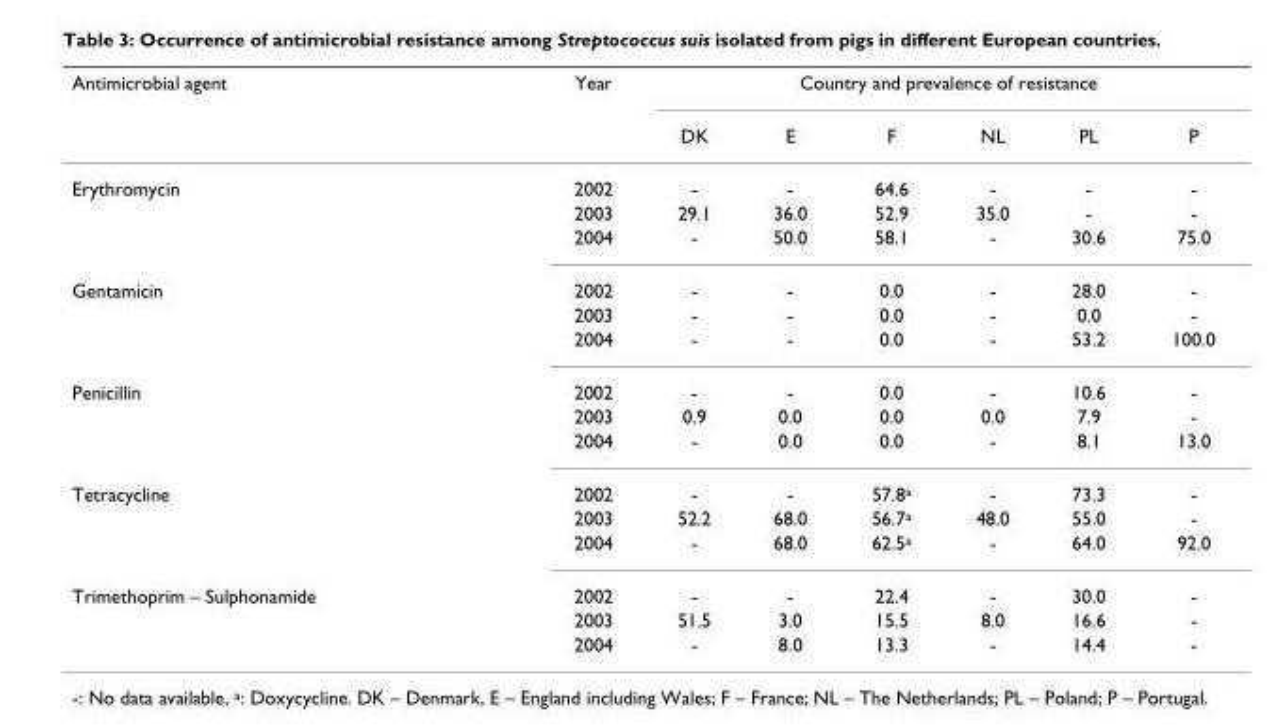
<table><thead><tr><td rowspan="2">Antimicrobial agent</td><td rowspan="2">Year</td><td colspan="6">Country and prevalence of resistance</td></tr><tr><td>DK</td><td>E</td><td>F</td><td>NL</td><td>PL</td><td>P</td></tr></thead><tbody><tr><td rowspan="3">Erythromycin</td><td>2002</td><td>-</td><td>-</td><td>64.6</td><td>-</td><td>-</td><td>-</td></tr><tr><td>2003</td><td>29.1</td><td>36.0</td><td>52.9</td><td>35.0</td><td>-</td><td>-</td></tr><tr><td>2004</td><td>-</td><td>50.0</td><td>58.1</td><td>-</td><td>30.6</td><td>75.0</td></tr><tr><td rowspan="3">Gentamicin</td><td>2002</td><td>-</td><td>-</td><td>0.0</td><td>-</td><td>28.0</td><td>-</td></tr><tr><td>2003</td><td>-</td><td>-</td><td>0.0</td><td>-</td><td>0.0</td><td>-</td></tr><tr><td>2004</td><td>-</td><td>-</td><td>0.0</td><td>-</td><td>53.2</td><td>100.0</td></tr><tr><td rowspan="3">Penicillin</td><td>2002</td><td>-</td><td>-</td><td>0.0</td><td>-</td><td>10.6</td><td>-</td></tr><tr><td>2003</td><td>0.9</td><td>0.0</td><td>0.0</td><td>0.0</td><td>7.9</td><td>-</td></tr><tr><td>2004</td><td>-</td><td>0.0</td><td>0.0</td><td>-</td><td>8.1</td><td>13.0</td></tr><tr><td rowspan="3">Tetracycline</td><td>2002</td><td>-</td><td>-</td><td>57.8<sup>a</sup></td><td>-</td><td>73.3</td><td>-</td></tr><tr><td>2003</td><td>52.2</td><td>68.0</td><td>56.7<sup>a</sup></td><td>48.0</td><td>55.0</td><td>-</td></tr><tr><td>2004</td><td>-</td><td>68.0</td><td>62.5<sup>a</sup></td><td>-</td><td>64.0</td><td>92.0</td></tr><tr><td rowspan="3">Trimethoprim – Sulphonamide</td><td>2002</td><td>-</td><td>-</td><td>22.4</td><td>-</td><td>30.0</td><td>-</td></tr><tr><td>2003</td><td>51.5</td><td>3.0</td><td>15.5</td><td>8.0</td><td>16.6</td><td>-</td></tr><tr><td>2004</td><td>-</td><td>8.0</td><td>13.3</td><td>-</td><td>14.4</td><td>-</td></tr></tbody></table>